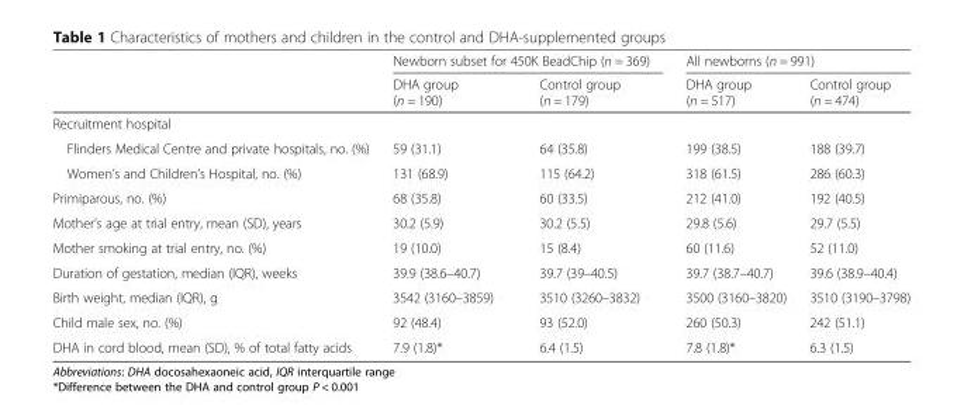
<table><thead><tr><td rowspan="2"></td><td colspan="2">Newborn subset for 450K BeadChip (n = 369)</td><td colspan="2">All newborns (n = 991)</td></tr><tr><td>DHA group (n = 190)</td><td>Control group (n = 179)</td><td>DHA group (n = 517)</td><td>Control group (n = 474)</td></tr></thead><tbody><tr><td colspan="5">Recruitment hospital</td></tr><tr><td>Flinders Medical Centre and private hospitals, no. (%)</td><td>59 (31.1)</td><td>64 (35.8)</td><td>199 (38.5)</td><td>188 (39.7)</td></tr><tr><td>Women’s and Children’s Hospital, no. (%)</td><td>131 (68.9)</td><td>115 (64.2)</td><td>318 (61.5)</td><td>286 (60.3)</td></tr><tr><td>Primiparous, no. (%)</td><td>68 (35.8)</td><td>60 (33.5)</td><td>212 (41.0)</td><td>192 (40.5)</td></tr><tr><td>Mother’s age at trial entry, mean (SD), years</td><td>30.2 (5.9)</td><td>30.2 (5.5)</td><td>29.8 (5.6)</td><td>29.7 (5.5)</td></tr><tr><td>Mother smoking at trial entry, no. (%)</td><td>19 (10.0)</td><td>15 (8.4)</td><td>60 (11.6)</td><td>52 (11.0)</td></tr><tr><td>Duration of gestation, median (IQR), weeks</td><td>39.9 (38.6–40.7)</td><td>39.7 (39–40.5)</td><td>39.7 (38.7–40.7)</td><td>39.6 (38.9–40.4)</td></tr><tr><td>Birth weight, median (IQR), g</td><td>3542 (3160–3859)</td><td>3510 (3260–3832)</td><td>3500 (3160–3820)</td><td>3510 (3190–3798)</td></tr><tr><td>Child male sex, no. (%)</td><td>92 (48.4)</td><td>93 (52.0)</td><td>260 (50.3)</td><td>242 (51.1)</td></tr><tr><td>DHA in cord blood, mean (SD), % of total fatty acids</td><td>7.9 (1.8)*</td><td>6.4 (1.5)</td><td>7.8 (1.8)*</td><td>6.3 (1.5)</td></tr></tbody></table>